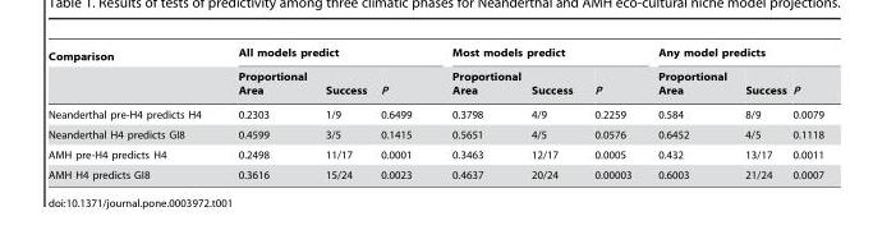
<table><thead><tr><td rowspan="2">Comparison</td><td colspan="3">All models predict</td><td colspan="3">Most models predict</td><td colspan="3">Any model predicts</td></tr><tr><td>Proportional Area</td><td>Success</td><td>P</td><td>Proportional Area</td><td>Success</td><td>P</td><td>Proportional Area</td><td>Success</td><td>P</td></tr></thead><tbody><tr><td>Neanderthal pre-H4 predicts H4</td><td>0.2303</td><td>1/9</td><td>0.6499</td><td>0.3798</td><td>4/9</td><td>0.2259</td><td>0.584</td><td>8/9</td><td>0.0079</td></tr><tr><td>Neanderthal H4 predicts GI8</td><td>0.4599</td><td>3/5</td><td>0.1415</td><td>0.5651</td><td>4/5</td><td>0.0576</td><td>0.6452</td><td>4/5</td><td>0.1118</td></tr><tr><td>AMH pre-H4 predicts H4</td><td>0.2498</td><td>11/17</td><td>0.0001</td><td>0.3463</td><td>12/17</td><td>0.0005</td><td>0.432</td><td>13/17</td><td>0.0011</td></tr><tr><td>AMH H4 predicts GI8</td><td>0.3616</td><td>15/24</td><td>0.0023</td><td>0.4637</td><td>20/24</td><td>0.00003</td><td>0.6003</td><td>21/24</td><td>0.0007</td></tr></tbody></table>